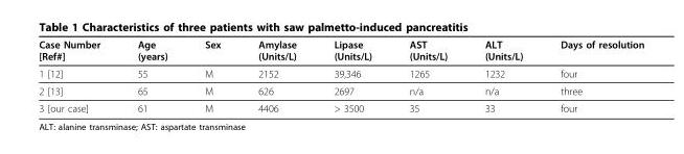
<table><thead><tr><td>Case Number [Ref#]</td><td>Age (years)</td><td>Sex</td><td>Amylase (Units/L)</td><td>Lipase (Units/L)</td><td>AST (Units/L)</td><td>ALT (Units/L)</td><td>Days of resolution</td></tr></thead><tbody><tr><td>1 [12]</td><td>55</td><td>M</td><td>2152</td><td>39,346</td><td>1265</td><td>1232</td><td>four</td></tr><tr><td>2 [13]</td><td>65</td><td>M</td><td>626</td><td>2697</td><td>n/a</td><td>n/a</td><td>three</td></tr><tr><td>3 [our case]</td><td>61</td><td>M</td><td>4406</td><td>&gt; 3500</td><td>35</td><td>33</td><td>four</td></tr></tbody></table>